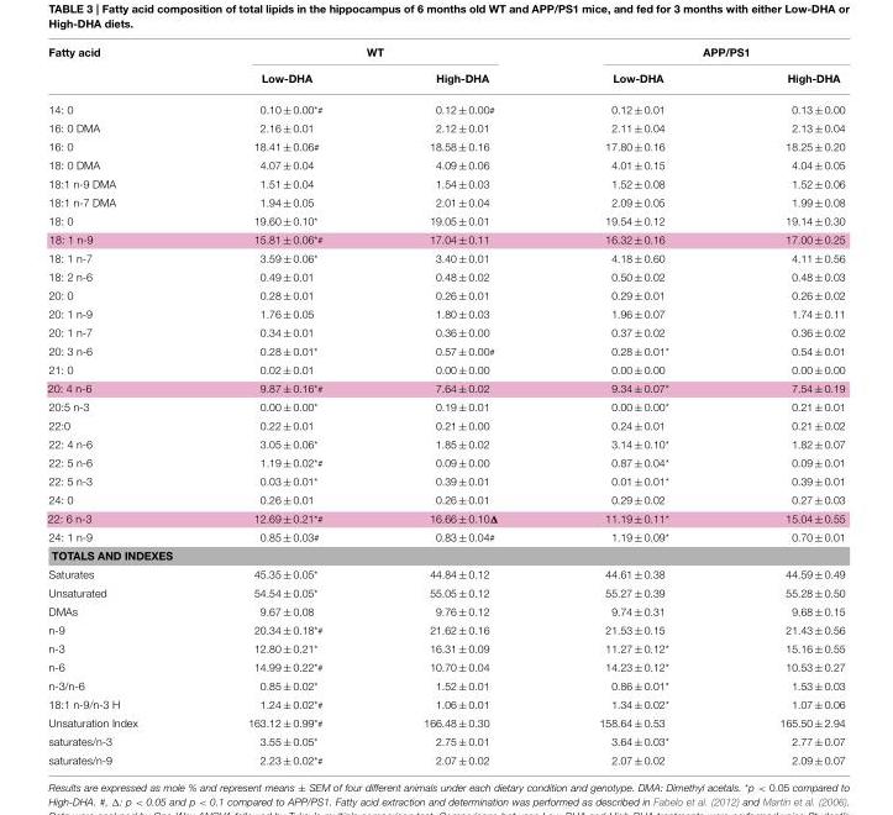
<table><thead><tr><td rowspan="2">Fatty acid</td><td colspan="2">WT</td><td colspan="2">APP/PS1</td></tr><tr><td>Low-DHA</td><td>High-DHA</td><td>Low-DHA</td><td>High-DHA</td></tr></thead><tbody><tr><td>14: 0</td><td>0.10 ± 0.00<sup>*#</sup></td><td>0.12 ± 0.00<sup>#</sup></td><td>0.12 ± 0.01</td><td>0.13 ± 0.00</td></tr><tr><td>16: 0 DMA</td><td>2.16 ± 0.01</td><td>2.12 ± 0.01</td><td>2.11 ± 0.04</td><td>2.13 ± 0.04</td></tr><tr><td>16: 0</td><td>18.41 ± 0.06<sup>#</sup></td><td>18.58 ± 0.16</td><td>17.80 ± 0.16</td><td>18.25 ± 0.20</td></tr><tr><td>18: 0 DMA</td><td>4.07 ± 0.04</td><td>4.09 ± 0.06</td><td>4.01 ± 0.15</td><td>4.04 ± 0.05</td></tr><tr><td>18:1 n-9 DMA</td><td>1.51 ± 0.04</td><td>1.54 ± 0.03</td><td>1.52 ± 0.08</td><td>1.52 ± 0.06</td></tr><tr><td>18:1 n-7 DMA</td><td>1.94 ± 0.05</td><td>2.01 ± 0.04</td><td>2.09 ± 0.05</td><td>1.99 ± 0.08</td></tr><tr><td>18: 0</td><td>19.60 ± 0.10*</td><td>19.05 ± 0.01</td><td>19.54 ± 0.12</td><td>19.14 ± 0.30</td></tr><tr><td>18: 1 n-9</td><td>15.81 ± 0.06<sup>*#</sup></td><td>17.04 ± 0.11</td><td>16.32 ± 0.16</td><td>17.00 ± 0.25</td></tr><tr><td>18: 1 n-7</td><td>3.59 ± 0.06*</td><td>3.40 ± 0.01</td><td>4.18 ± 0.60</td><td>4.11 ± 0.56</td></tr><tr><td>18: 2 n-6</td><td>0.49 ± 0.01</td><td>0.48 ± 0.02</td><td>0.50 ± 0.02</td><td>0.48 ± 0.03</td></tr><tr><td>20: 0</td><td>0.28 ± 0.01</td><td>0.26 ± 0.01</td><td>0.29 ± 0.01</td><td>0.26 ± 0.02</td></tr><tr><td>20: 1 n-9</td><td>1.76 ± 0.05</td><td>1.80 ± 0.03</td><td>1.96 ± 0.07</td><td>1.74 ± 0.11</td></tr><tr><td>20: 1 n-7</td><td>0.34 ± 0.01</td><td>0.36 ± 0.00</td><td>0.37 ± 0.02</td><td>0.36 ± 0.02</td></tr><tr><td>20: 3 n-6</td><td>0.28 ± 0.01*</td><td>0.57 ± 0.00<sup>#</sup></td><td>0.28 ± 0.01*</td><td>0.54 ± 0.01</td></tr><tr><td>21: 0</td><td>0.02 ± 0.01</td><td>0.00 ± 0.00</td><td>0.00 ± 0.00</td><td>0.00 ± 0.00</td></tr><tr><td>20: 4 n-6</td><td>9.87 ± 0.16<sup>*#</sup></td><td>7.64 ± 0.02</td><td>9.34 ± 0.07*</td><td>7.54 ± 0.19</td></tr><tr><td>20:5 n-3</td><td>0.00 ± 0.00*</td><td>0.19 ± 0.01</td><td>0.00 ± 0.00*</td><td>0.21 ± 0.01</td></tr><tr><td>22:0</td><td>0.22 ± 0.01</td><td>0.21 ± 0.00</td><td>0.24 ± 0.01</td><td>0.21 ± 0.02</td></tr><tr><td>22: 4 n-6</td><td>3.05 ± 0.06*</td><td>1.85 ± 0.02</td><td>3.14 ± 0.10*</td><td>1.82 ± 0.07</td></tr><tr><td>22: 5 n-6</td><td>1.19 ± 0.02<sup>*#</sup></td><td>0.09 ± 0.00</td><td>0.87 ± 0.04*</td><td>0.09 ± 0.01</td></tr><tr><td>22: 5 n-3</td><td>0.03 ± 0.01*</td><td>0.39 ± 0.01</td><td>0.01 ± 0.01*</td><td>0.39 ± 0.01</td></tr><tr><td>24: 0</td><td>0.26 ± 0.01</td><td>0.26 ± 0.01</td><td>0.29 ± 0.02</td><td>0.27 ± 0.03</td></tr><tr><td>22: 6 n-3</td><td>12.69 ± 0.21<sup>*#</sup></td><td>16.66 ± 0.10Δ</td><td>11.19 ± 0.11*</td><td>15.04 ± 0.55</td></tr><tr><td>24: 1 n-9</td><td>0.85 ± 0.03<sup>#</sup></td><td>0.83 ± 0.04<sup>#</sup></td><td>1.19 ± 0.09*</td><td>0.70 ± 0.01</td></tr><tr><td colspan="5">TOTALS AND INDEXES</td></tr><tr><td>Saturates</td><td>45.35 ± 0.05*</td><td>44.84 ± 0.12</td><td>44.61 ± 0.38</td><td>44.59 ± 0.49</td></tr><tr><td>Unsaturated</td><td>54.54 ± 0.05*</td><td>55.05 ± 0.12</td><td>55.27 ± 0.39</td><td>55.28 ± 0.50</td></tr><tr><td>DMAs</td><td>9.67 ± 0.08</td><td>9.76 ± 0.12</td><td>9.74 ± 0.31</td><td>9.68 ± 0.15</td></tr><tr><td>n-9</td><td>20.34 ± 0.18<sup>*#</sup></td><td>21.62 ± 0.16</td><td>21.53 ± 0.15</td><td>21.43 ± 0.56</td></tr><tr><td>n-3</td><td>12.80 ± 0.21*</td><td>16.31 ± 0.09</td><td>11.27 ± 0.12*</td><td>15.16 ± 0.55</td></tr><tr><td>n-6</td><td>14.99 ± 0.22<sup>*#</sup></td><td>10.70 ± 0.04</td><td>14.23 ± 0.12*</td><td>10.53 ± 0.27</td></tr><tr><td>n-3/n-6</td><td>0.85 ± 0.02*</td><td>1.52 ± 0.01</td><td>0.86 ± 0.01*</td><td>1.53 ± 0.03</td></tr><tr><td>18:1 n-9/n-3 H</td><td>1.24 ± 0.02<sup>*#</sup></td><td>1.06 ± 0.01</td><td>1.34 ± 0.02*</td><td>1.07 ± 0.06</td></tr><tr><td>Unsaturation Index</td><td>163.12 ± 0.99<sup>*#</sup></td><td>166.48 ± 0.30</td><td>158.64 ± 0.53</td><td>165.50 ± 2.94</td></tr><tr><td>saturates/n-3</td><td>3.55 ± 0.05*</td><td>2.75 ± 0.01</td><td>3.64 ± 0.03*</td><td>2.77 ± 0.07</td></tr><tr><td>saturates/n-9</td><td>2.23 ± 0.02<sup>*#</sup></td><td>2.07 ± 0.02</td><td>2.07 ± 0.02</td><td>2.09 ± 0.07</td></tr></tbody></table>